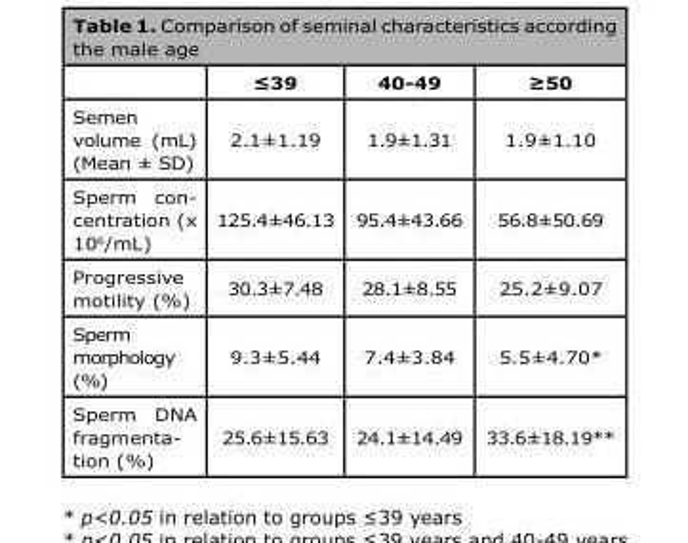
<table><thead><tr><td></td><td>≤39</td><td>40-49</td><td>≥50</td></tr></thead><tbody><tr><td>Semen volume (mL) (Mean ± SD)</td><td>2.1±1.19</td><td>1.9±1.31</td><td>1.9±1.10</td></tr><tr><td>Sperm con- centration (x 106/mL)</td><td>125.4±46.13</td><td>95.4±43.66</td><td>56.8±50.69</td></tr><tr><td>Progressive motility (%)</td><td>30.3±7.48</td><td>28.1±8.55</td><td>25.2±9.07</td></tr><tr><td>Sperm morphology (%)</td><td>9.3±5.44</td><td>7.4±3.84</td><td>5.5±4.70*</td></tr><tr><td>Sperm DNA fragmenta- tion (%)</td><td>25.6±15.63</td><td>24.1±14.49</td><td>33.6±18.19**</td></tr></tbody></table>